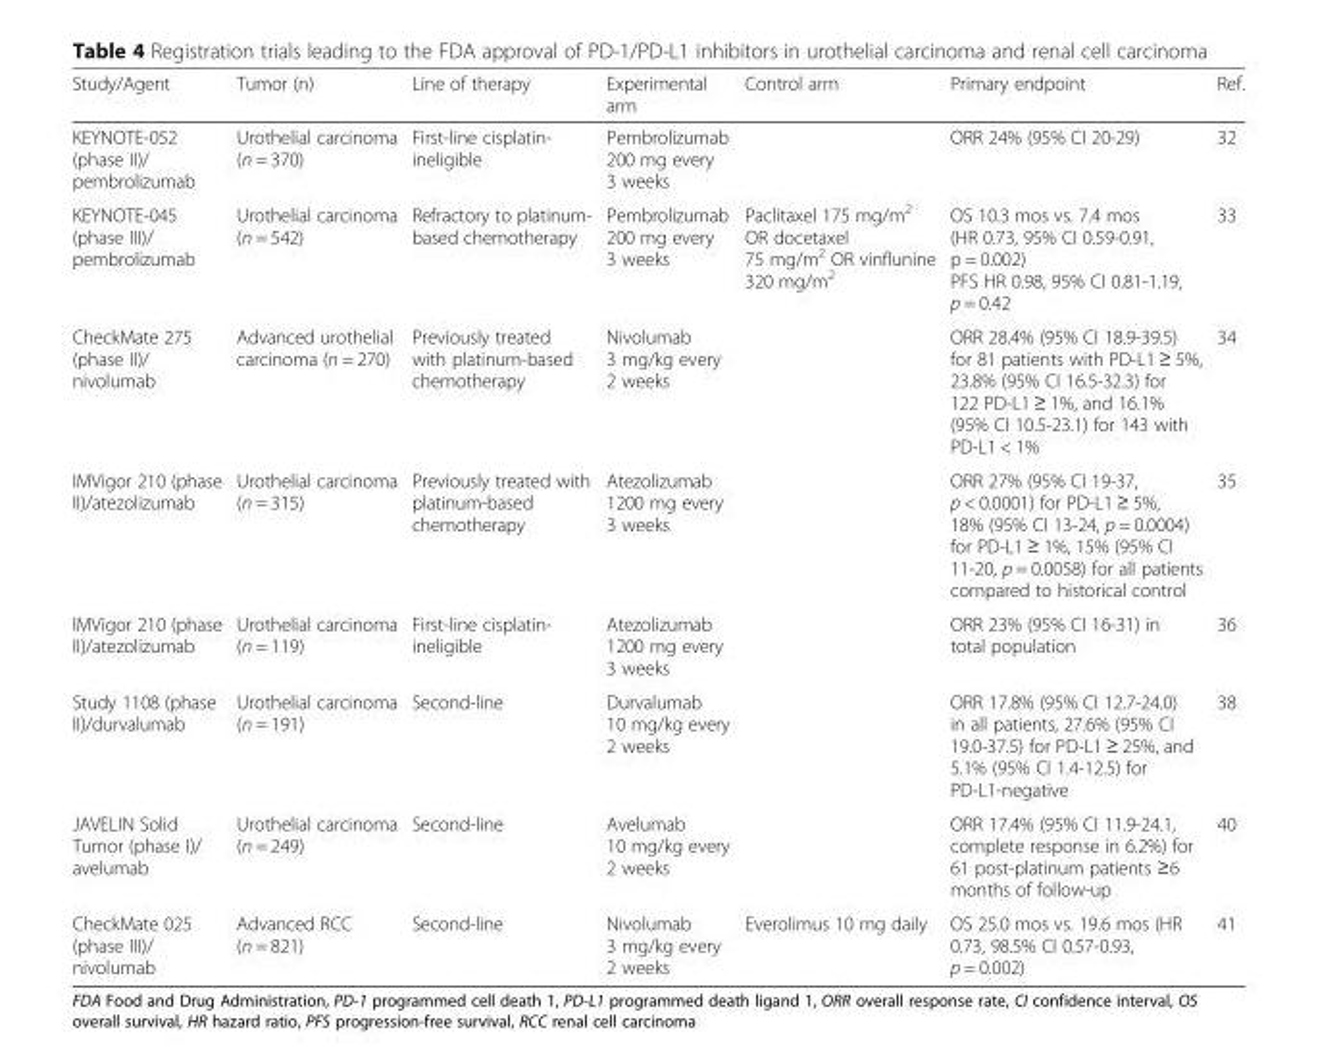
<table><thead><tr><td>Study/Agent</td><td>Tumor (n)</td><td>Line of therapy</td><td>Experimental arm</td><td>Control arm</td><td>Primary endpoint</td><td>Ref.</td></tr></thead><tbody><tr><td>KEYNOTE-052 (phase II)/ pembrolizumab</td><td>Urothelial carcinoma (n = 370)</td><td>First-line cisplatin- ineligible</td><td>Pembrolizumab 200 mg every 3 weeks</td><td></td><td>ORR 24% (95% CI 20-29)</td><td>32</td></tr><tr><td>KEYNOTE-045 (phase III)/ pembrolizumab</td><td>Urothelial carcinoma (n = 542)</td><td>Refractory to platinum- based chemotherapy</td><td>Pembrolizumab 200 mg every 3 weeks</td><td>Paclitaxel 175 mg/m<sup>2</sup> OR docetaxel 75 mg/m<sup>2</sup> OR vinflunine 320 mg/m<sup>2</sup></td><td>OS 10.3 mos vs. 7.4 mos (HR 0.73, 95% CI 0.59-0.91, p = 0.002) PFS HR 0.98, 95% CI 0.81-1.19, p = 0.42</td><td>33</td></tr><tr><td>CheckMate 275 (phase II)/ nivolumab</td><td>Advanced urothelial carcinoma (n = 270)</td><td>Previously treated with platinum-based chemotherapy</td><td>Nivolumab 3 mg/kg every 2 weeks</td><td></td><td>ORR 28.4% (95% CI 18.9-39.5) for 81 patients with PD-L1 ≥ 5%, 23.8% (95% CI 16.5-32.3) for 122 PD-L1 ≥ 1%, and 16.1% (95% CI 10.5-23.1) for 143 with PD-L1 &lt; 1%</td><td>34</td></tr><tr><td>IMVigor 210 (phase II)/atezolizumab</td><td>Urothelial carcinoma (n = 315)</td><td>Previously treated with platinum-based chemotherapy</td><td>Atezolizumab 1200 mg every 3 weeks</td><td></td><td>ORR 27% (95% CI 19-37, p &lt; 0.0001) for PD-L1 ≥ 5%, 18% (95% CI 13-24, p = 0.0004) for PD-L1 ≥ 1%, 15% (95% CI 11-20, p = 0.0058) for all patients compared to historical control</td><td>35</td></tr><tr><td>IMVigor 210 (phase II)/atezolizumab</td><td>Urothelial carcinoma (n = 119)</td><td>First-line cisplatin- ineligible</td><td>Atezolizumab 1200 mg every 3 weeks</td><td></td><td>ORR 23% (95% CI 16-31) in total population</td><td>36</td></tr><tr><td>Study 1108 (phase II)/durvalumab</td><td>Urothelial carcinoma (n = 191)</td><td>Second-line</td><td>Durvalumab 10 mg/kg every 2 weeks</td><td></td><td>ORR 17.8% (95% CI 12.7-24.0) in all patients, 27.6% (95% CI 19.0-37.5) for PD-L1 ≥ 25%, and 5.1% (95% CI 1.4-12.5) for PD-L1-negative</td><td>38</td></tr><tr><td>JAVELIN Solid Tumor (phase I)/ avelumab</td><td>Urothelial carcinoma (n = 249)</td><td>Second-line</td><td>Avelumab 10 mg/kg every 2 weeks</td><td></td><td>ORR 17.4% (95% CI 11.9-24.1, complete response in 6.2%) for 61 post-platinum patients ≥6 months of follow-up</td><td>40</td></tr><tr><td>CheckMate 025 (phase III)/ nivolumab</td><td>Advanced RCC (n = 821)</td><td>Second-line</td><td>Nivolumab 3 mg/kg every 2 weeks</td><td>Everolimus 10 mg daily</td><td>OS 25.0 mos vs. 19.6 mos (HR 0.73, 98.5% CI 0.57-0.93, p = 0.002)</td><td>41</td></tr></tbody></table>